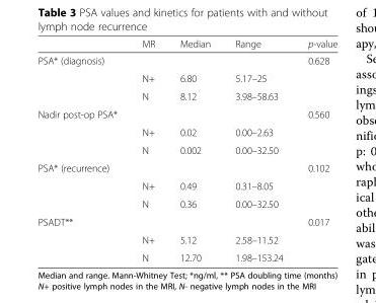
<table><thead><tr><td></td><td>MR</td><td>Median</td><td>Range</td><td>p-value</td></tr></thead><tbody><tr><td rowspan="3">PSA* (diagnosis)</td><td></td><td></td><td></td><td>0.628</td></tr><tr><td>N+</td><td>6.80</td><td>5.17–25</td><td></td></tr><tr><td>N</td><td>8.12</td><td>3.98–58.63</td><td></td></tr><tr><td rowspan="3">Nadir post-op PSA*</td><td></td><td></td><td></td><td>0.560</td></tr><tr><td>N+</td><td>0.02</td><td>0.00–2.63</td><td></td></tr><tr><td>N</td><td>0.002</td><td>0.00–32.50</td><td></td></tr><tr><td rowspan="3">PSA* (recurrence)</td><td></td><td></td><td></td><td>0.102</td></tr><tr><td>N+</td><td>0.49</td><td>0.31–8.05</td><td></td></tr><tr><td>N</td><td>0.36</td><td>0.00–32.50</td><td></td></tr><tr><td rowspan="3">PSADT**</td><td></td><td></td><td></td><td>0.017</td></tr><tr><td>N+</td><td>5.12</td><td>2.58–11.52</td><td></td></tr><tr><td>N</td><td>12.70</td><td>1.98–153.24</td><td></td></tr></tbody></table>